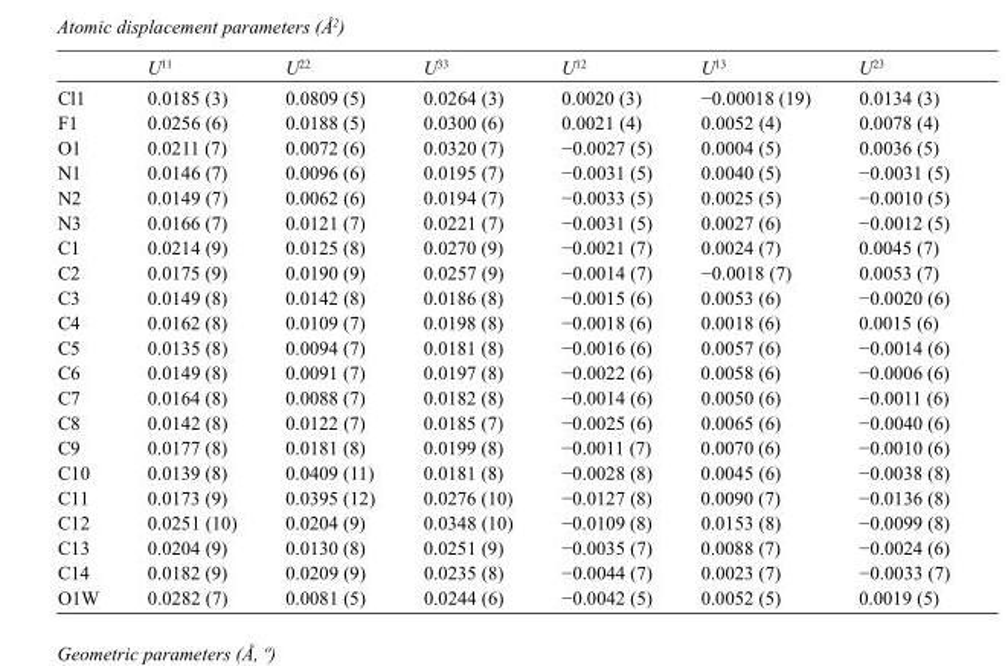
<table><thead><tr><td></td><td>U<sup>11</sup></td><td>U<sup>22</sup></td><td>U<sup>33</sup></td><td>U<sup>12</sup></td><td>U<sup>13</sup></td><td>U<sup>23</sup></td></tr></thead><tbody><tr><td>Cl1</td><td>0.0185 (3)</td><td>0.0809 (5)</td><td>0.0264 (3)</td><td>0.0020 (3)</td><td>−0.00018 (19)</td><td>0.0134 (3)</td></tr><tr><td>F1</td><td>0.0256 (6)</td><td>0.0188 (5)</td><td>0.0300 (6)</td><td>0.0021 (4)</td><td>0.0052 (4)</td><td>0.0078 (4)</td></tr><tr><td>O1</td><td>0.0211 (7)</td><td>0.0072 (6)</td><td>0.0320 (7)</td><td>−0.0027 (5)</td><td>0.0004 (5)</td><td>0.0036 (5)</td></tr><tr><td>N1</td><td>0.0146 (7)</td><td>0.0096 (6)</td><td>0.0195 (7)</td><td>−0.0031 (5)</td><td>0.0040 (5)</td><td>−0.0031 (5)</td></tr><tr><td>N2</td><td>0.0149 (7)</td><td>0.0062 (6)</td><td>0.0194 (7)</td><td>−0.0033 (5)</td><td>0.0025 (5)</td><td>−0.0010 (5)</td></tr><tr><td>N3</td><td>0.0166 (7)</td><td>0.0121 (7)</td><td>0.0221 (7)</td><td>−0.0031 (5)</td><td>0.0027 (6)</td><td>−0.0012 (5)</td></tr><tr><td>C1</td><td>0.0214 (9)</td><td>0.0125 (8)</td><td>0.0270 (9)</td><td>−0.0021 (7)</td><td>0.0024 (7)</td><td>0.0045 (7)</td></tr><tr><td>C2</td><td>0.0175 (9)</td><td>0.0190 (9)</td><td>0.0257 (9)</td><td>−0.0014 (7)</td><td>−0.0018 (7)</td><td>0.0053 (7)</td></tr><tr><td>C3</td><td>0.0149 (8)</td><td>0.0142 (8)</td><td>0.0186 (8)</td><td>−0.0015 (6)</td><td>0.0053 (6)</td><td>−0.0020 (6)</td></tr><tr><td>C4</td><td>0.0162 (8)</td><td>0.0109 (7)</td><td>0.0198 (8)</td><td>−0.0018 (6)</td><td>0.0018 (6)</td><td>0.0015 (6)</td></tr><tr><td>C5</td><td>0.0135 (8)</td><td>0.0094 (7)</td><td>0.0181 (8)</td><td>−0.0016 (6)</td><td>0.0057 (6)</td><td>−0.0014 (6)</td></tr><tr><td>C6</td><td>0.0149 (8)</td><td>0.0091 (7)</td><td>0.0197 (8)</td><td>−0.0022 (6)</td><td>0.0058 (6)</td><td>−0.0006 (6)</td></tr><tr><td>C7</td><td>0.0164 (8)</td><td>0.0088 (7)</td><td>0.0182 (8)</td><td>−0.0014 (6)</td><td>0.0050 (6)</td><td>−0.0011 (6)</td></tr><tr><td>C8</td><td>0.0142 (8)</td><td>0.0122 (7)</td><td>0.0185 (7)</td><td>−0.0025 (6)</td><td>0.0065 (6)</td><td>−0.0040 (6)</td></tr><tr><td>C9</td><td>0.0177 (8)</td><td>0.0181 (8)</td><td>0.0199 (8)</td><td>−0.0011 (7)</td><td>0.0070 (6)</td><td>−0.0010 (6)</td></tr><tr><td>C10</td><td>0.0139 (8)</td><td>0.0409 (11)</td><td>0.0181 (8)</td><td>−0.0028 (8)</td><td>0.0045 (6)</td><td>−0.0038 (8)</td></tr><tr><td>C11</td><td>0.0173 (9)</td><td>0.0395 (12)</td><td>0.0276 (10)</td><td>−0.0127 (8)</td><td>0.0090 (7)</td><td>−0.0136 (8)</td></tr><tr><td>C12</td><td>0.0251 (10)</td><td>0.0204 (9)</td><td>0.0348 (10)</td><td>−0.0109 (8)</td><td>0.0153 (8)</td><td>−0.0099 (8)</td></tr><tr><td>C13</td><td>0.0204 (9)</td><td>0.0130 (8)</td><td>0.0251 (9)</td><td>−0.0035 (7)</td><td>0.0088 (7)</td><td>−0.0024 (6)</td></tr><tr><td>C14</td><td>0.0182 (9)</td><td>0.0209 (9)</td><td>0.0235 (8)</td><td>−0.0044 (7)</td><td>0.0023 (7)</td><td>−0.0033 (7)</td></tr><tr><td>O1W</td><td>0.0282 (7)</td><td>0.0081 (5)</td><td>0.0244 (6)</td><td>−0.0042 (5)</td><td>0.0052 (5)</td><td>0.0019 (5)</td></tr></tbody></table>